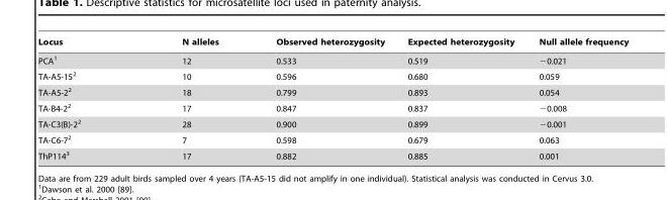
<table><thead><tr><td>Locus</td><td>N alleles</td><td>Observed heterozygosity</td><td>Expected heterozygosity</td><td>Null allele frequency</td></tr></thead><tbody><tr><td>PCA<sup>1</sup></td><td>12</td><td>0.533</td><td>0.519</td><td>−0.021</td></tr><tr><td>TA-A5-15<sup>2</sup></td><td>10</td><td>0.596</td><td>0.680</td><td>0.059</td></tr><tr><td>TA-A5-2<sup>2</sup></td><td>18</td><td>0.799</td><td>0.893</td><td>0.054</td></tr><tr><td>TA-B4-2<sup>2</sup></td><td>17</td><td>0.847</td><td>0.837</td><td>−0.008</td></tr><tr><td>TA-C3(B)-2<sup>2</sup></td><td>28</td><td>0.900</td><td>0.899</td><td>−0.001</td></tr><tr><td>TA-C6-7<sup>2</sup></td><td>7</td><td>0.598</td><td>0.679</td><td>0.063</td></tr><tr><td>ThP114<sup>3</sup></td><td>17</td><td>0.882</td><td>0.885</td><td>0.001</td></tr></tbody></table>